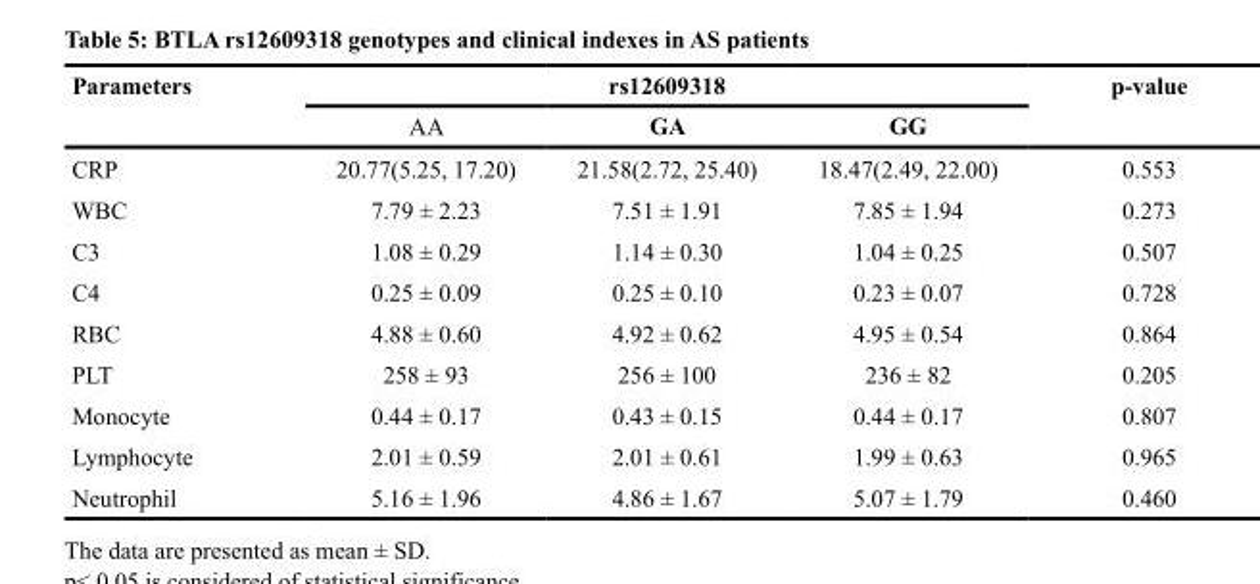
<table><thead><tr><td rowspan="2">Parameters</td><td colspan="3">rs12609318</td><td rowspan="2">p-value</td></tr><tr><td>AA</td><td>GA</td><td>GG</td></tr></thead><tbody><tr><td>CRP</td><td>20.77(5.25, 17.20)</td><td>21.58(2.72, 25.40)</td><td>18.47(2.49, 22.00)</td><td>0.553</td></tr><tr><td>WBC</td><td>7.79 ± 2.23</td><td>7.51 ± 1.91</td><td>7.85 ± 1.94</td><td>0.273</td></tr><tr><td>C3</td><td>1.08 ± 0.29</td><td>1.14 ± 0.30</td><td>1.04 ± 0.25</td><td>0.507</td></tr><tr><td>C4</td><td>0.25 ± 0.09</td><td>0.25 ± 0.10</td><td>0.23 ± 0.07</td><td>0.728</td></tr><tr><td>RBC</td><td>4.88 ± 0.60</td><td>4.92 ± 0.62</td><td>4.95 ± 0.54</td><td>0.864</td></tr><tr><td>PLT</td><td>258 ± 93</td><td>256 ± 100</td><td>236 ± 82</td><td>0.205</td></tr><tr><td>Monocyte</td><td>0.44 ± 0.17</td><td>0.43 ± 0.15</td><td>0.44 ± 0.17</td><td>0.807</td></tr><tr><td>Lymphocyte</td><td>2.01 ± 0.59</td><td>2.01 ± 0.61</td><td>1.99 ± 0.63</td><td>0.965</td></tr><tr><td>Neutrophil</td><td>5.16 ± 1.96</td><td>4.86 ± 1.67</td><td>5.07 ± 1.79</td><td>0.460</td></tr></tbody></table>